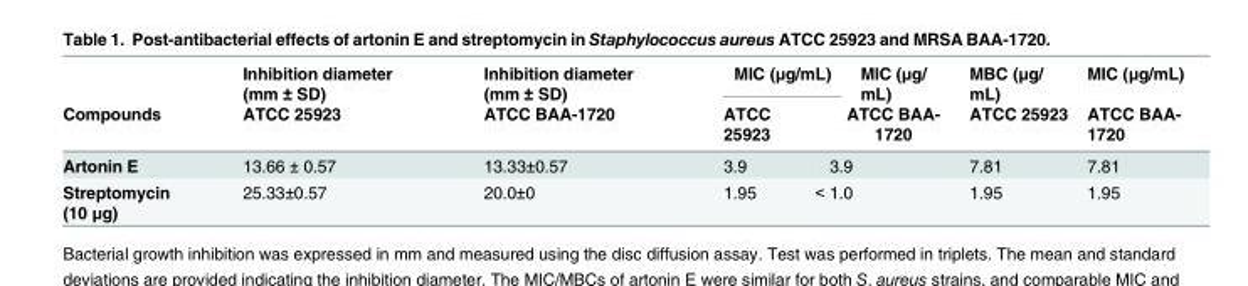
<table><thead><tr><td rowspan="4">Compounds Artonin E Streptomycin (10 μg)</td><td rowspan="4">Inhibition diameter (mm ± SD) ATCC 25923 13.66 ± 0.57 25.33±0.57</td><td rowspan="4">Inhibition diameter (mm ± SD) ATCC BAA-1720 13.33±0.57 20.0±0</td><td colspan="2">MIC (μg/mL)</td><td>MIC (μg/ mL)</td><td rowspan="4">MBC (μg/ mL) ATCC 25923 7.81 1.95</td><td rowspan="4">MIC (μg/mL) ATCC BAA- 1720 7.81 1.95</td></tr><tr><td rowspan="3">ATCC 25923 3.9 1.95</td><td rowspan="3" colspan="2">ATCC BAA- 1720 3.9 &lt; 1.0</td></tr><tr></tr><tr></tr></thead><tbody></tbody></table>